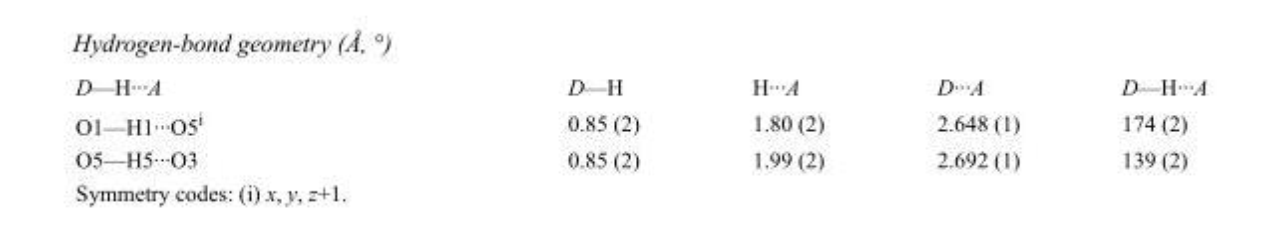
<table><tbody><tr><td>D—H···A</td><td>D—H</td><td>H···A</td><td>D···A</td><td>D—H···A</td></tr><tr><td>O1—H1···O5<sup>i</sup></td><td>0.85 (2)</td><td>1.80 (2)</td><td>2.648 (1)</td><td>174 (2)</td></tr><tr><td>O5—H5···O3</td><td>0.85 (2)</td><td>1.99 (2)</td><td>2.692 (1)</td><td>139 (2)</td></tr></tbody></table>